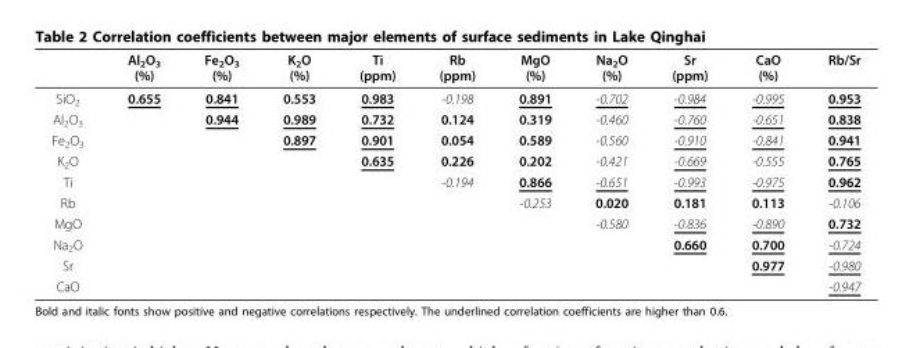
<table><thead><tr><td></td><td>Al<sub>2</sub>O<sub>3</sub> (%)</td><td>Fe<sub>2</sub>O<sub>3</sub> (%)</td><td>K<sub>2</sub>O (%)</td><td>Ti (ppm)</td><td>Rb (ppm)</td><td>MgO (%)</td><td>Na<sub>2</sub>O (%)</td><td>Sr (ppm)</td><td>CaO (%)</td><td>Rb/Sr</td></tr></thead><tbody><tr><td>SiO<sub>2</sub></td><td>0.655</td><td>0.841</td><td>0.553</td><td>0.983</td><td>-0.198</td><td>0.891</td><td>-0.702</td><td>-0.984</td><td>-0.995</td><td>0.953</td></tr><tr><td>Al<sub>2</sub>O<sub>3</sub></td><td></td><td>0.944</td><td>0.989</td><td>0.732</td><td>0.124</td><td>0.319</td><td>-0.460</td><td>-0.760</td><td>-0.651</td><td>0.838</td></tr><tr><td>Fe<sub>2</sub>O<sub>3</sub></td><td></td><td></td><td>0.897</td><td>0.901</td><td>0.054</td><td>0.589</td><td>-0.560</td><td>-0.910</td><td>-0.841</td><td>0.941</td></tr><tr><td>K<sub>2</sub>O</td><td></td><td></td><td></td><td>0.635</td><td>0.226</td><td>0.202</td><td>-0.421</td><td>-0.669</td><td>-0.555</td><td>0.765</td></tr><tr><td>Ti</td><td></td><td></td><td></td><td></td><td>-0.194</td><td>0.866</td><td>-0.651</td><td>-0.993</td><td>-0.975</td><td>0.962</td></tr><tr><td>Rb</td><td></td><td></td><td></td><td></td><td></td><td>-0.253</td><td>0.020</td><td>0.181</td><td>0.113</td><td>-0.106</td></tr><tr><td>MgO</td><td></td><td></td><td></td><td></td><td></td><td></td><td>-0.580</td><td>-0.836</td><td>-0.890</td><td>0.732</td></tr><tr><td>Na<sub>2</sub>O</td><td></td><td></td><td></td><td></td><td></td><td></td><td></td><td>0.660</td><td>0.700</td><td>-0.724</td></tr><tr><td>Sr</td><td></td><td></td><td></td><td></td><td></td><td></td><td></td><td></td><td>0.977</td><td>-0.980</td></tr><tr><td>CaO</td><td></td><td></td><td></td><td></td><td></td><td></td><td></td><td></td><td></td><td>-0.947</td></tr></tbody></table>